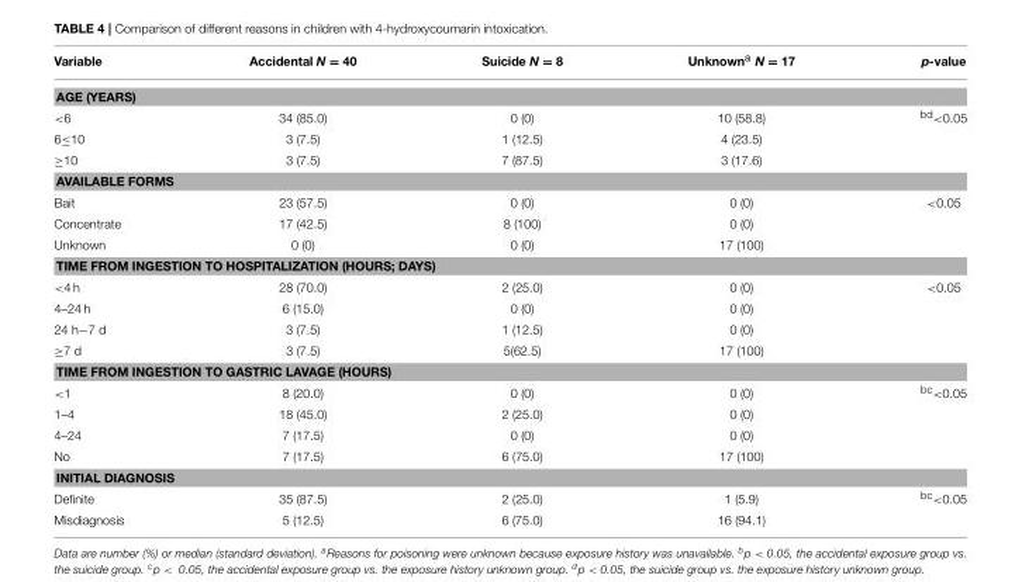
<table><thead><tr><td>Variable</td><td>Accidental N = 40</td><td>Suicide N = 8</td><td>Unknown<sup>a</sup> N = 17</td><td>p-value</td></tr></thead><tbody><tr><td colspan="5">AGE (YEARS)</td></tr><tr><td>&lt;6</td><td>34 (85.0)</td><td>0 (0)</td><td>10 (58.8)</td><td><sup>bd</sup>&lt;0.05</td></tr><tr><td>6≤10</td><td>3 (7.5)</td><td>1 (12.5)</td><td>4 (23.5)</td><td></td></tr><tr><td>≥10</td><td>3 (7.5)</td><td>7 (87.5)</td><td>3 (17.6)</td><td></td></tr><tr><td colspan="5">AVAILABLE FORMS</td></tr><tr><td>Bait</td><td>23 (57.5)</td><td>0 (0)</td><td>0 (0)</td><td>&lt;0.05</td></tr><tr><td>Concentrate</td><td>17 (42.5)</td><td>8 (100)</td><td>0 (0)</td><td></td></tr><tr><td>Unknown</td><td>0 (0)</td><td>0 (0)</td><td>17 (100)</td><td></td></tr><tr><td colspan="5">TIME FROM INGESTION TO HOSPITALIZATION (HOURS; DAYS)</td></tr><tr><td>&lt;4 h</td><td>28 (70.0)</td><td>2 (25.0)</td><td>0 (0)</td><td>&lt;0.05</td></tr><tr><td>4–24 h</td><td>6 (15.0)</td><td>0 (0)</td><td>0 (0)</td><td></td></tr><tr><td>24 h−7 d</td><td>3 (7.5)</td><td>1 (12.5)</td><td>0 (0)</td><td></td></tr><tr><td>≥7 d</td><td>3 (7.5)</td><td>5(62.5)</td><td>17 (100)</td><td></td></tr><tr><td colspan="5">TIME FROM INGESTION TO GASTRIC LAVAGE (HOURS)</td></tr><tr><td>&lt;1</td><td>8 (20.0)</td><td>0 (0)</td><td>0 (0)</td><td><sup>bc</sup>&lt;0.05</td></tr><tr><td>1–4</td><td>18 (45.0)</td><td>2 (25.0)</td><td>0 (0)</td><td></td></tr><tr><td>4–24</td><td>7 (17.5)</td><td>0 (0)</td><td>0 (0)</td><td></td></tr><tr><td>No</td><td>7 (17.5)</td><td>6 (75.0)</td><td>17 (100)</td><td></td></tr><tr><td colspan="5">INITIAL DIAGNOSIS</td></tr><tr><td>Definite</td><td>35 (87.5)</td><td>2 (25.0)</td><td>1 (5.9)</td><td><sup>bc</sup>&lt;0.05</td></tr><tr><td>Misdiagnosis</td><td>5 (12.5)</td><td>6 (75.0)</td><td>16 (94.1)</td><td></td></tr></tbody></table>